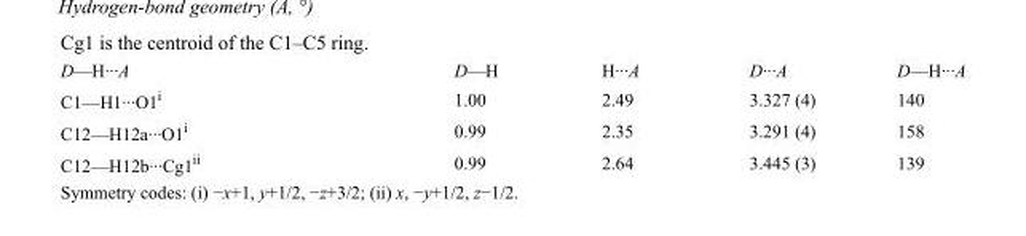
<table><tbody><tr><td>D—H···A</td><td>D—H</td><td>H···A</td><td>D···A</td><td>D—H···A</td></tr><tr><td>C1—H1···O1<sup>i</sup></td><td>1.00</td><td>2.49</td><td>3.327 (4)</td><td>140</td></tr><tr><td>C12—H12a···O1<sup>i</sup></td><td>0.99</td><td>2.35</td><td>3.291 (4)</td><td>158</td></tr><tr><td>C12—H12b···Cg1<sup>ii</sup></td><td>0.99</td><td>2.64</td><td>3.445 (3)</td><td>139</td></tr></tbody></table>